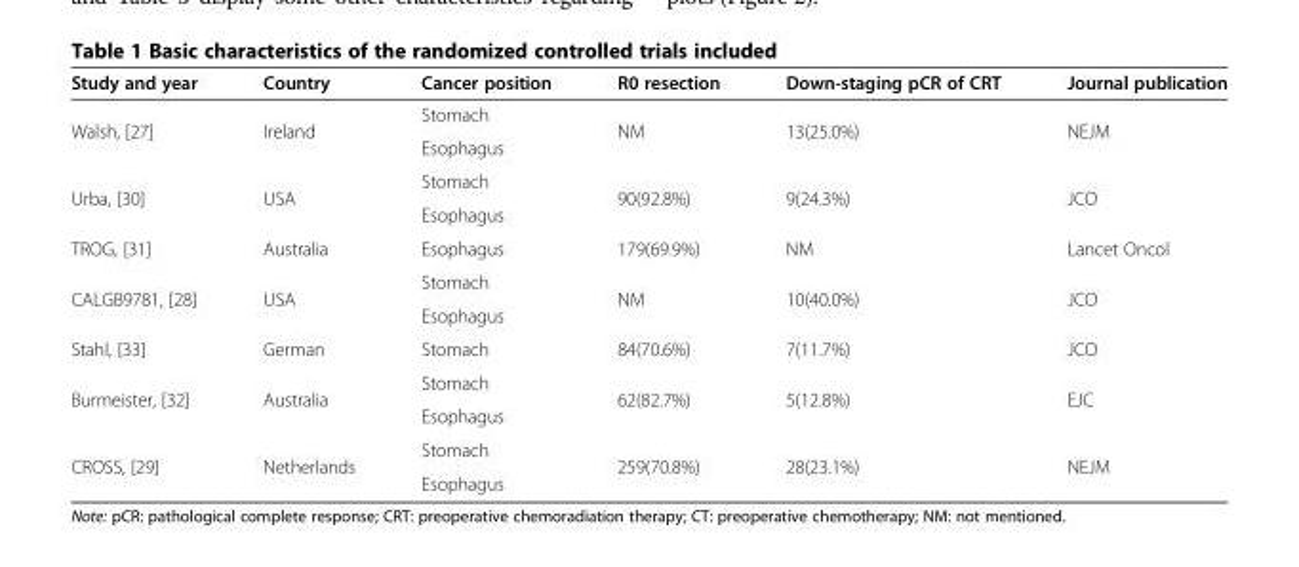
<table><thead><tr><td>Study and year</td><td>Country</td><td>Cancer position</td><td>R0 resection</td><td>Down-staging pCR of CRT</td><td>Journal publication</td></tr></thead><tbody><tr><td rowspan="2">Walsh, [27]</td><td rowspan="2">Ireland</td><td>Stomach</td><td rowspan="2">NM</td><td rowspan="2">13(25.0%)</td><td rowspan="2">NEJM</td></tr><tr><td>Esophagus</td></tr><tr><td rowspan="2">Urba, [30]</td><td rowspan="2">USA</td><td>Stomach</td><td rowspan="2">90(92.8%)</td><td rowspan="2">9(24.3%)</td><td rowspan="2">JCO</td></tr><tr><td>Esophagus</td></tr><tr><td>TROG, [31]</td><td>Australia</td><td>Esophagus</td><td>179(69.9%)</td><td>NM</td><td>Lancet Oncol</td></tr><tr><td rowspan="2">CALGB9781, [28]</td><td rowspan="2">USA</td><td>Stomach</td><td rowspan="2">NM</td><td rowspan="2">10(40.0%)</td><td rowspan="2">JCO</td></tr><tr><td>Esophagus</td></tr><tr><td>Stahl, [33]</td><td>German</td><td>Stomach</td><td>84(70.6%)</td><td>7(11.7%)</td><td>JCO</td></tr><tr><td rowspan="2">Burmeister, [32]</td><td rowspan="2">Australia</td><td>Stomach</td><td rowspan="2">62(82.7%)</td><td rowspan="2">5(12.8%)</td><td rowspan="2">EJC</td></tr><tr><td>Esophagus</td></tr><tr><td rowspan="2">CROSS, [29]</td><td rowspan="2">Netherlands</td><td>Stomach</td><td rowspan="2">259(70.8%)</td><td rowspan="2">28(23.1%)</td><td rowspan="2">NEJM</td></tr><tr><td>Esophagus</td></tr></tbody></table>